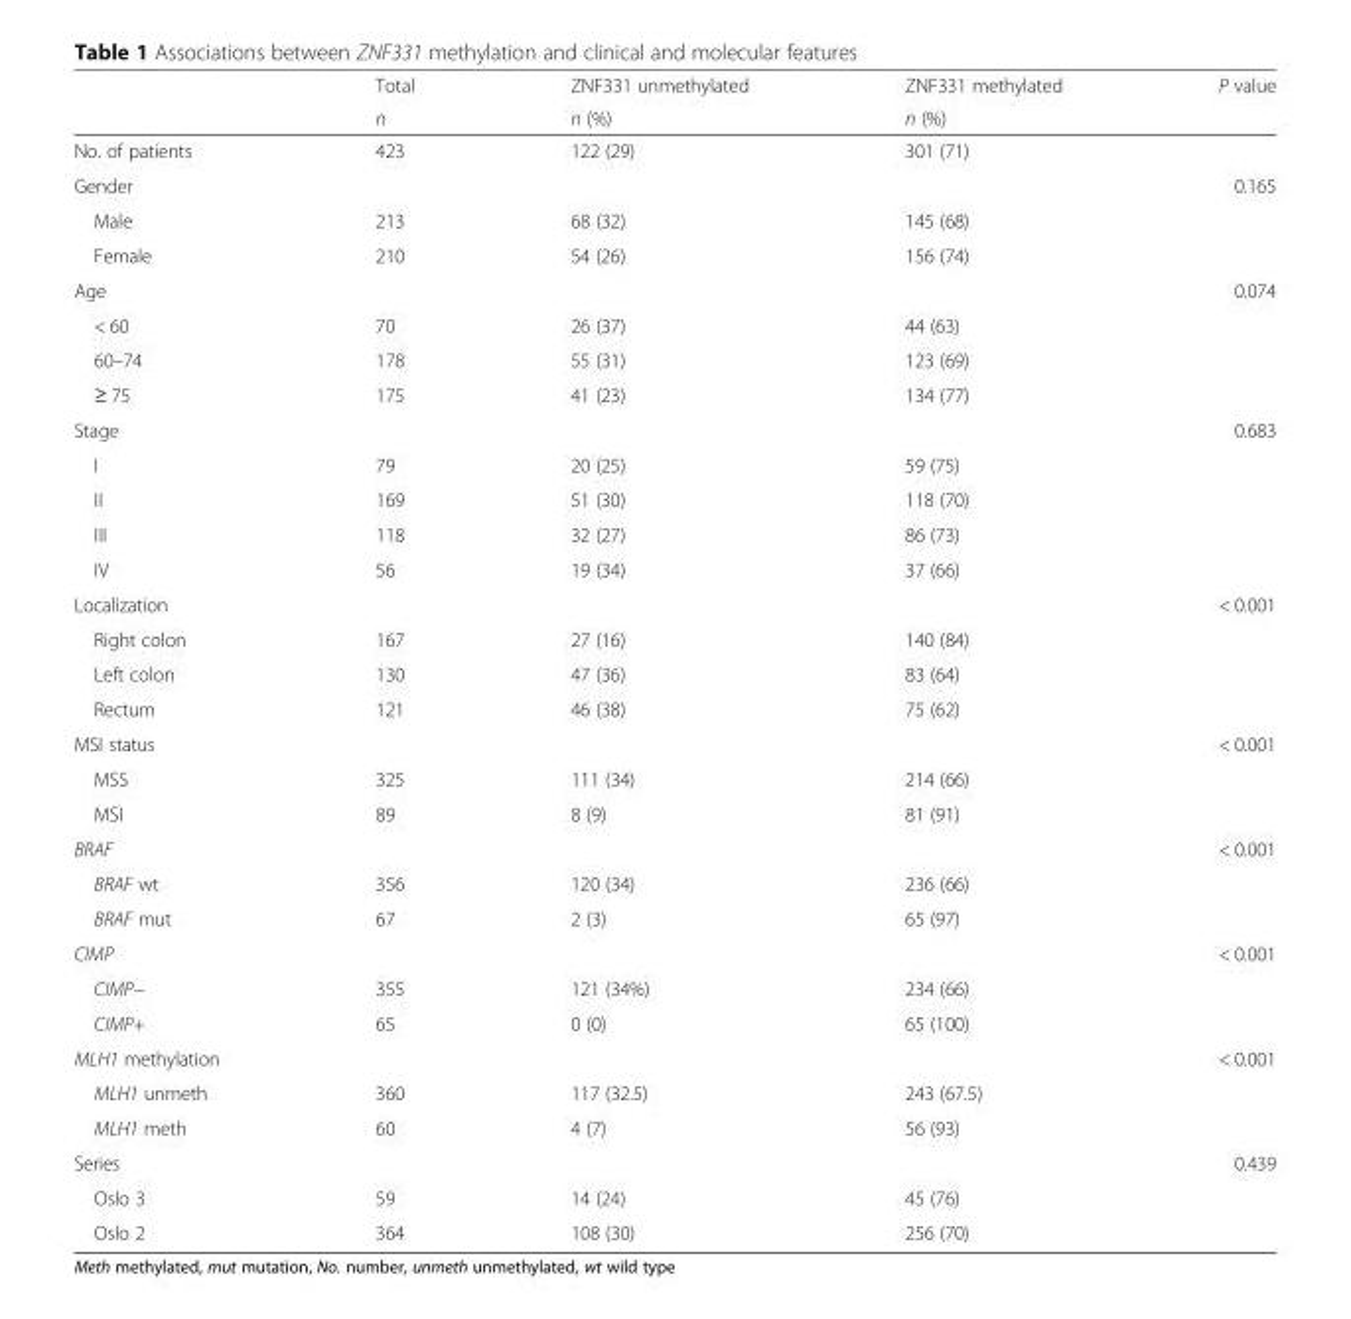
<table><thead><tr><td rowspan="2"></td><td rowspan="2">Total n</td><td rowspan="2">ZNF331 unmethylated n (%)</td><td rowspan="2">ZNF331 methylated n (%)</td><td rowspan="2">P value</td></tr><tr></tr></thead><tbody><tr><td>No. of patients</td><td>423</td><td>122 (29)</td><td>301 (71)</td><td></td></tr><tr><td>Gender</td><td></td><td></td><td></td><td>0.165</td></tr><tr><td>Male</td><td>213</td><td>68 (32)</td><td>145 (68)</td><td></td></tr><tr><td>Female</td><td>210</td><td>54 (26)</td><td>156 (74)</td><td></td></tr><tr><td>Age</td><td></td><td></td><td></td><td>0.074</td></tr><tr><td>&lt; 60</td><td>70</td><td>26 (37)</td><td>44 (63)</td><td></td></tr><tr><td>60–74</td><td>178</td><td>55 (31)</td><td>123 (69)</td><td></td></tr><tr><td>≥ 75</td><td>175</td><td>41 (23)</td><td>134 (77)</td><td></td></tr><tr><td>Stage</td><td></td><td></td><td></td><td>0.683</td></tr><tr><td>I</td><td>79</td><td>20 (25)</td><td>59 (75)</td><td></td></tr><tr><td>II</td><td>169</td><td>51 (30)</td><td>118 (70)</td><td></td></tr><tr><td>III</td><td>118</td><td>32 (27)</td><td>86 (73)</td><td></td></tr><tr><td>IV</td><td>56</td><td>19 (34)</td><td>37 (66)</td><td></td></tr><tr><td>Localization</td><td></td><td></td><td></td><td>&lt; 0.001</td></tr><tr><td>Right colon</td><td>167</td><td>27 (16)</td><td>140 (84)</td><td></td></tr><tr><td>Left colon</td><td>130</td><td>47 (36)</td><td>83 (64)</td><td></td></tr><tr><td>Rectum</td><td>121</td><td>46 (38)</td><td>75 (62)</td><td></td></tr><tr><td>MSI status</td><td></td><td></td><td></td><td>&lt; 0.001</td></tr><tr><td>MSS</td><td>325</td><td>111 (34)</td><td>214 (66)</td><td></td></tr><tr><td>MSI</td><td>89</td><td>8 (9)</td><td>81 (91)</td><td></td></tr><tr><td>BRAF</td><td></td><td></td><td></td><td>&lt; 0.001</td></tr><tr><td>BRAF wt</td><td>356</td><td>120 (34)</td><td>236 (66)</td><td></td></tr><tr><td>BRAF mut</td><td>67</td><td>2 (3)</td><td>65 (97)</td><td></td></tr><tr><td>CIMP</td><td></td><td></td><td></td><td>&lt; 0.001</td></tr><tr><td>CIMP−</td><td>355</td><td>121 (34%)</td><td>234 (66)</td><td></td></tr><tr><td>CIMP+</td><td>65</td><td>0 (0)</td><td>65 (100)</td><td></td></tr><tr><td>MLH1 methylation</td><td></td><td></td><td></td><td>&lt; 0.001</td></tr><tr><td>MLH1 unmeth</td><td>360</td><td>117 (32.5)</td><td>243 (67.5)</td><td></td></tr><tr><td>MLH1 meth</td><td>60</td><td>4 (7)</td><td>56 (93)</td><td></td></tr><tr><td>Series</td><td></td><td></td><td></td><td>0.439</td></tr><tr><td>Oslo 3</td><td>59</td><td>14 (24)</td><td>45 (76)</td><td></td></tr><tr><td>Oslo 2</td><td>364</td><td>108 (30)</td><td>256 (70)</td><td></td></tr></tbody></table>